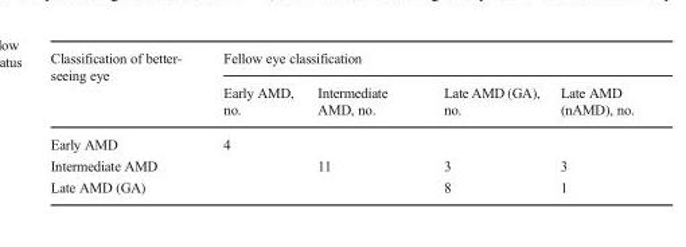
<table><thead><tr><td rowspan="2">Classification of better- seeing eye</td><td colspan="4">Fellow eye classification</td></tr><tr><td>Early AMD, no.</td><td>Intermediate AMD, no.</td><td>Late AMD (GA), no.</td><td>Late AMD (nAMD), no.</td></tr></thead><tbody><tr><td>Early AMD</td><td>4</td><td></td><td></td><td></td></tr><tr><td>Intermediate AMD</td><td></td><td>11</td><td>3</td><td>3</td></tr><tr><td>Late AMD (GA)</td><td></td><td></td><td>8</td><td>1</td></tr></tbody></table>